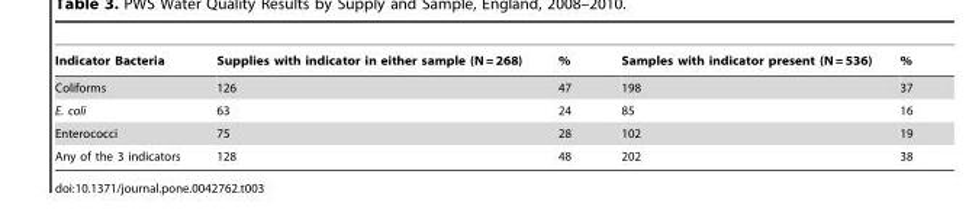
<table><thead><tr><td>Indicator Bacteria</td><td>Supplies with indicator in either sample (N = 268)</td><td>%</td><td>Samples with indicator present (N = 536)</td><td>%</td></tr></thead><tbody><tr><td>Coliforms</td><td>126</td><td>47</td><td>198</td><td>37</td></tr><tr><td>E. coli</td><td>63</td><td>24</td><td>85</td><td>16</td></tr><tr><td>Enterococci</td><td>75</td><td>28</td><td>102</td><td>19</td></tr><tr><td>Any of the 3 indicators</td><td>128</td><td>48</td><td>202</td><td>38</td></tr></tbody></table>